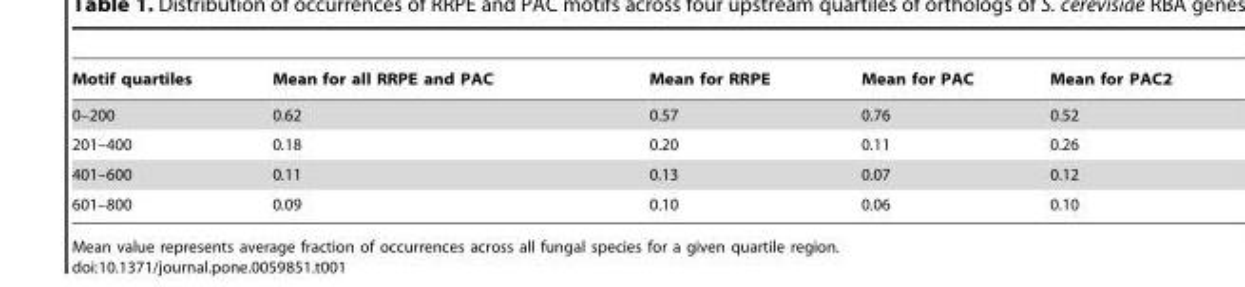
<table><thead><tr><td>Motif quartiles</td><td>Mean for all RRPE and PAC</td><td>Mean for RRPE</td><td>Mean for PAC</td><td>Mean for PAC2</td></tr></thead><tbody><tr><td>0–200</td><td>0.62</td><td>0.57</td><td>0.76</td><td>0.52</td></tr><tr><td>201–400</td><td>0.18</td><td>0.20</td><td>0.11</td><td>0.26</td></tr><tr><td>401–600</td><td>0.11</td><td>0.13</td><td>0.07</td><td>0.12</td></tr><tr><td>601–800</td><td>0.09</td><td>0.10</td><td>0.06</td><td>0.10</td></tr></tbody></table>